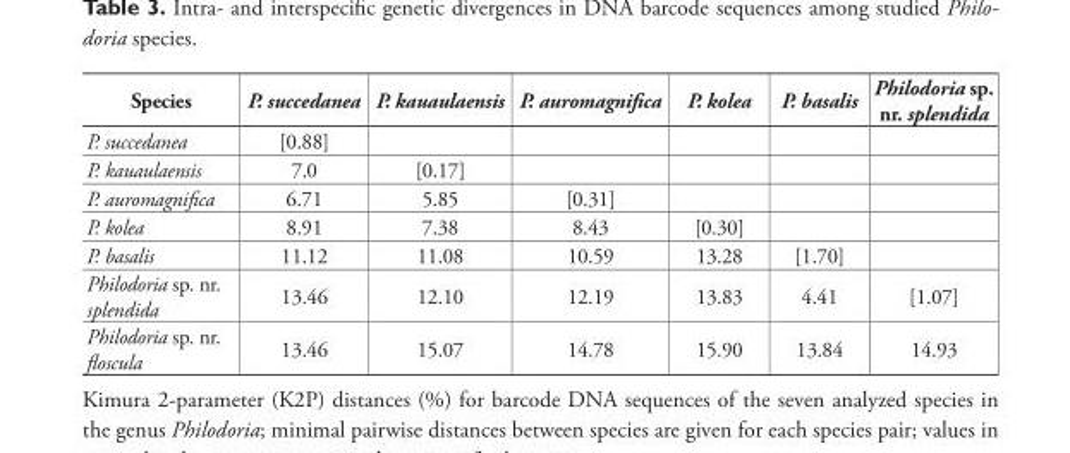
<table><thead><tr><td>Species</td><td>P. succedanea</td><td>P. kauaulaensis</td><td>P. auromagnifica</td><td>P. kolea</td><td>P. basalis</td><td>Philodoria sp. nr. splendida</td></tr></thead><tbody><tr><td>P. succedanea</td><td>[0.88]</td><td></td><td></td><td></td><td></td><td></td></tr><tr><td>P. kauaulaensis</td><td>7.0</td><td>[0.17]</td><td></td><td></td><td></td><td></td></tr><tr><td>P. auromagnifica</td><td>6.71</td><td>5.85</td><td>[0.31]</td><td></td><td></td><td></td></tr><tr><td>P. kolea</td><td>8.91</td><td>7.38</td><td>8.43</td><td>[0.30]</td><td></td><td></td></tr><tr><td>P. basalis</td><td>11.12</td><td>11.08</td><td>10.59</td><td>13.28</td><td>[1.70]</td><td></td></tr><tr><td>Philodoria sp. nr. splendida</td><td>13.46</td><td>12.10</td><td>12.19</td><td>13.83</td><td>4.41</td><td>[1.07]</td></tr><tr><td>Philodoria sp. nr. floscula</td><td>13.46</td><td>15.07</td><td>14.78</td><td>15.90</td><td>13.84</td><td>14.93</td></tr></tbody></table>